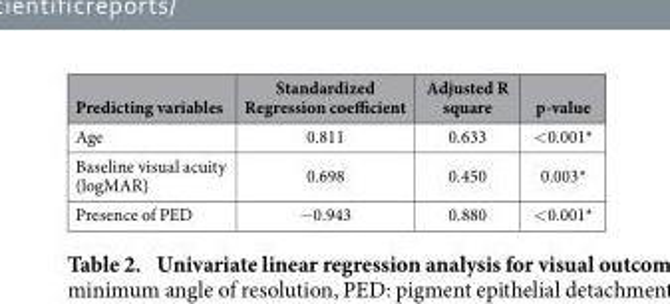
<table><thead><tr><td>Predicting variables</td><td>Standardized Regression coefficient</td><td>Adjusted R square</td><td>p-value</td></tr></thead><tbody><tr><td>Age</td><td>0.811</td><td>0.633</td><td>&lt; 0.001*</td></tr><tr><td>Baseline visual acuity (logMAR)</td><td>0.698</td><td>0.450</td><td>0.003*</td></tr><tr><td>Presence of PED</td><td>− 0.943</td><td>0.880</td><td>&lt; 0.001*</td></tr></tbody></table>